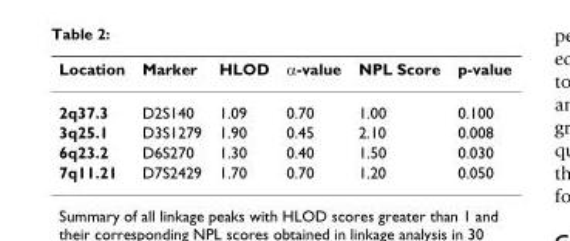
<table><thead><tr><td>Location</td><td>Marker</td><td>HLOD</td><td>α-value</td><td>NPL Score</td><td>p-value</td></tr></thead><tbody><tr><td>2q37.3</td><td>D2S140</td><td>1.09</td><td>0.70</td><td>1.00</td><td>0.100</td></tr><tr><td>3q25.1</td><td>D3S1279</td><td>1.90</td><td>0.45</td><td>2.10</td><td>0.008</td></tr><tr><td>6q23.2</td><td>D6S270</td><td>1.30</td><td>0.40</td><td>1.50</td><td>0.030</td></tr><tr><td>7q11.21</td><td>D7S2429</td><td>1.70</td><td>0.70</td><td>1.20</td><td>0.050</td></tr></tbody></table>